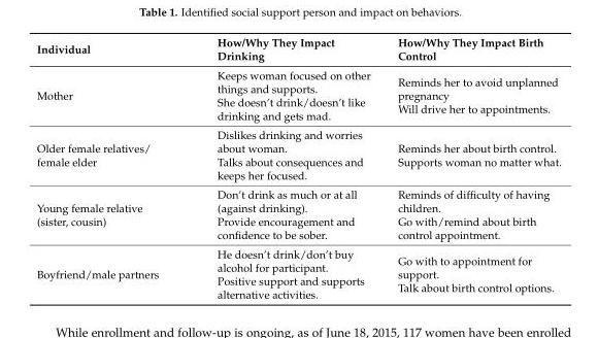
<table><thead><tr><td>Individual</td><td>How/Why They Impact Drinking</td><td>How/Why They Impact Birth Control</td></tr></thead><tbody><tr><td>Mother</td><td>Keeps woman focused on other things and supports. She doesn’t drink/doesn’t like drinking and gets mad.</td><td>Reminds her to avoid unplanned pregnancy Will drive her to appointments.</td></tr><tr><td>Older female relatives/ female elder</td><td>Dislikes drinking and worries about woman. Talks about consequences and keeps her focused.</td><td>Reminds her about birth control. Supports woman no matter what.</td></tr><tr><td>Young female relative (sister, cousin)</td><td>Don’t drink as much or at all (against drinking). Provide encouragement and confidence to be sober.</td><td>Reminds of difficulty of having children. Go with/remind about birth control appointment.</td></tr><tr><td>Boyfriend/male partners</td><td>He doesn’t drink/don’t buy alcohol for participant. Positive support and supports alternative activities.</td><td>Go with to appointment for support. Talk about birth control options.</td></tr></tbody></table>